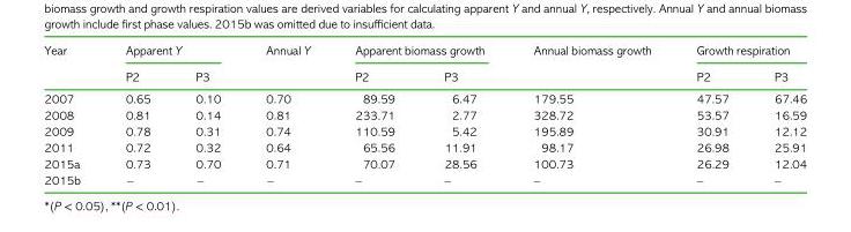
<table><thead><tr><td rowspan="2">Year</td><td colspan="2">Apparent Y</td><td rowspan="2">Annual Y</td><td colspan="2">Apparent biomass growth</td><td rowspan="2">Annual biomass growth</td><td colspan="2">Growth respiration</td></tr><tr><td>P2</td><td>P3</td><td>P2</td><td>P3</td><td>P2</td><td>P3</td></tr></thead><tbody><tr><td>2007</td><td>0.65</td><td>0.10</td><td>0.70</td><td>89.59</td><td>6.47</td><td>179.55</td><td>47.57</td><td>67.46</td></tr><tr><td>2008</td><td>0.81</td><td>0.14</td><td>0.81</td><td>233.71</td><td>2.77</td><td>328.72</td><td>53.57</td><td>16.59</td></tr><tr><td>2009</td><td>0.78</td><td>0.31</td><td>0.74</td><td>110.59</td><td>5.42</td><td>195.89</td><td>30.91</td><td>12.12</td></tr><tr><td>2011</td><td>0.72</td><td>0.32</td><td>0.64</td><td>65.56</td><td>11.91</td><td>98.17</td><td>26.98</td><td>25.91</td></tr><tr><td>2015a</td><td>0.73</td><td>0.70</td><td>0.71</td><td>70.07</td><td>28.56</td><td>100.73</td><td>26.29</td><td>12.04</td></tr><tr><td>2015b</td><td>–</td><td>–</td><td>–</td><td>–</td><td>–</td><td>–</td><td>–</td><td>–</td></tr></tbody></table>